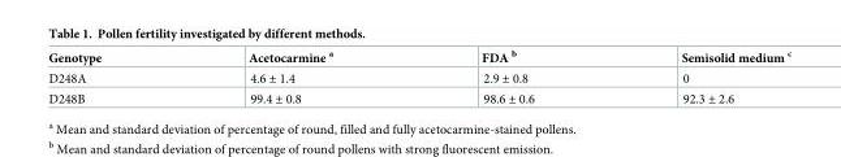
<table><thead><tr><td>Genotype</td><td>Acetocarmine <sup>a</sup></td><td>FDA <sup>b</sup></td><td>Semisolid medium <sup>c</sup></td></tr></thead><tbody><tr><td>D248A</td><td>4.6 ± 1.4</td><td>2.9 ± 0.8</td><td>0</td></tr><tr><td>D248B</td><td>99.4 ± 0.8</td><td>98.6 ± 0.6</td><td>92.3 ± 2.6</td></tr></tbody></table>